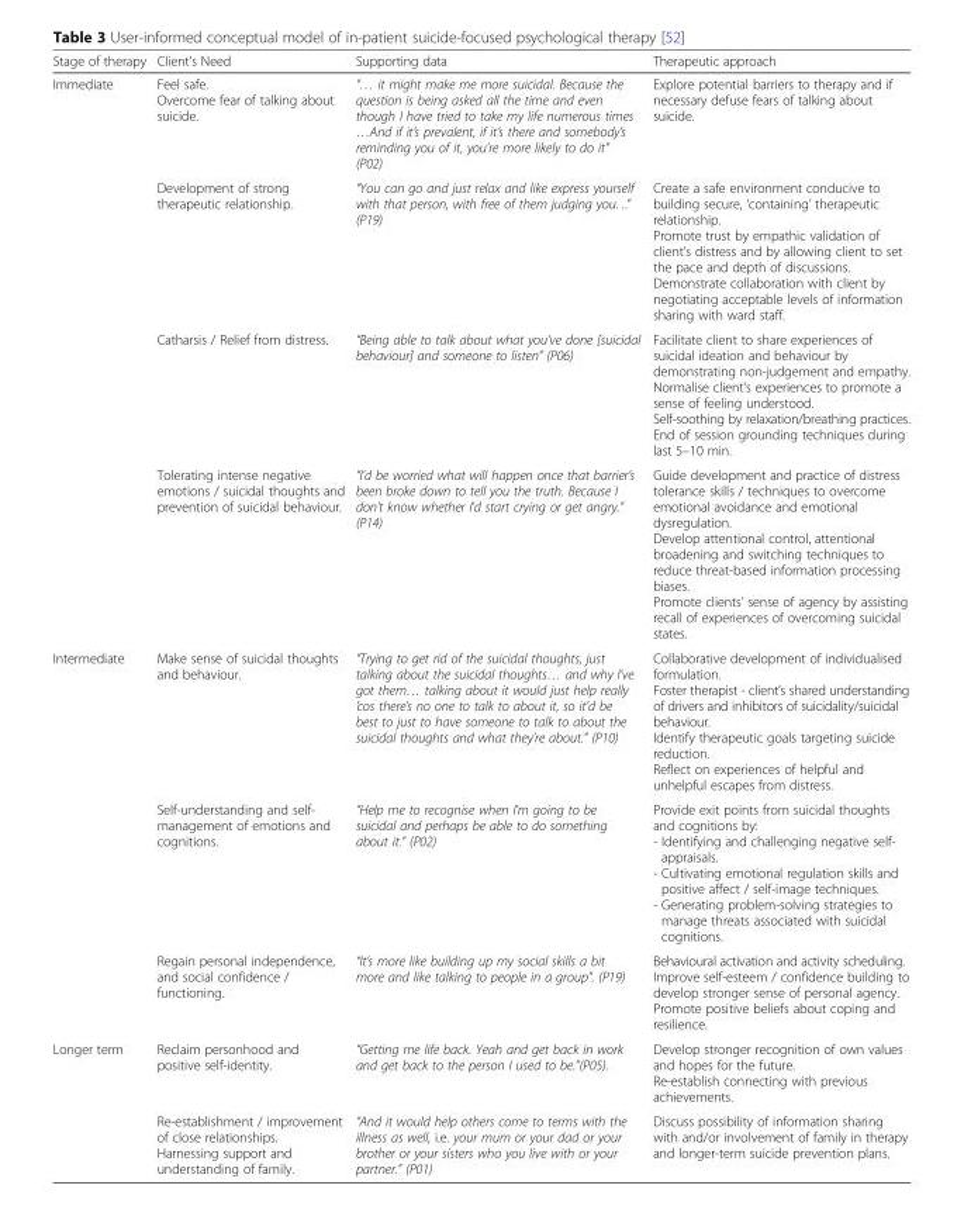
<table><thead><tr><td>Stage of therapy</td><td>Client’s Need</td><td>Supporting data</td><td>Therapeutic approach</td></tr></thead><tbody><tr><td rowspan="4">Immediate</td><td>Feel safe. Overcome fear of talking about suicide.</td><td>“… it might make me more suicidal. Because the question is being asked all the time and even though I have tried to take my life numerous times …And if it’s prevalent, if it’s there and somebody’s reminding you of it, you’re more likely to do it” (P02)</td><td>Explore potential barriers to therapy and if necessary defuse fears of talking about suicide.</td></tr><tr><td>Development of strong therapeutic relationship.</td><td>“You can go and just relax and like express yourself with that person, with free of them judging you. ..” (P19)</td><td>Create a safe environment conducive to building secure, ‘containing’ therapeutic relationship. Promote trust by empathic validation of client’s distress and by allowing client to set the pace and depth of discussions. Demonstrate collaboration with client by negotiating acceptable levels of information sharing with ward staff.</td></tr><tr><td>Catharsis / Relief from distress.</td><td>“Being able to talk about what you’ve done [suicidal behaviour] and someone to listen” (P06)</td><td>Facilitate client to share experiences of suicidal ideation and behaviour by demonstrating non-judgement and empathy. Normalise client’s experiences to promote a sense of feeling understood. Self-soothing by relaxation/breathing practices. End of session grounding techniques during last 5–10 min.</td></tr><tr><td>Tolerating intense negative emotions / suicidal thoughts and prevention of suicidal behaviour.</td><td>“I’d be worried what will happen once that barrier’s been broke down to tell you the truth. Because I don’t know whether I’d start crying or get angry.” (P14)</td><td>Guide development and practice of distress tolerance skills / techniques to overcome emotional avoidance and emotional dysregulation. Develop attentional control, attentional broadening and switching techniques to reduce threat-based information processing biases. Promote clients’ sense of agency by assisting recall of experiences of overcoming suicidal states.</td></tr><tr><td rowspan="3">Intermediate</td><td>Make sense of suicidal thoughts and behaviour.</td><td>“Trying to get rid of the suicidal thoughts, just talking about the suicidal thoughts… and why I’ve got them… talking about it would just help really ‘cos there’s no one to talk to about it, so it’d be best to just to have someone to talk to about the suicidal thoughts and what they’re about.” (P10)</td><td>Collaborative development of individualised formulation. Foster therapist - client’s shared understanding of drivers and inhibitors of suicidality/suicidal behaviour. Identify therapeutic goals targeting suicide reduction. Reflect on experiences of helpful and unhelpful escapes from distress.</td></tr><tr><td>Self-understanding and self- management of emotions and cognitions.</td><td>“Help me to recognise when I’m going to be suicidal and perhaps be able to do something about it.” (P02)</td><td>Provide exit points from suicidal thoughts and cognitions by: - Identifying and challenging negative self- appraisals. - Cultivating emotional regulation skills and positive affect / self-image techniques. - Generating problem-solving strategies to manage threats associated with suicidal cognitions.</td></tr><tr><td>Regain personal independence, and social confidence / functioning.</td><td>“It’s more like building up my social skills a bit more and like talking to people in a group”. (P19)</td><td>Behavioural activation and activity scheduling. Improve self-esteem / confidence building to develop stronger sense of personal agency. Promote positive beliefs about coping and resilience.</td></tr><tr><td rowspan="2">Longer term</td><td>Reclaim personhood and positive self-identity.</td><td>“Getting me life back. Yeah and get back in work and get back to the person I used to be.”(P05).</td><td>Develop stronger recognition of own values and hopes for the future. Re-establish connecting with previous achievements.</td></tr><tr><td>Re-establishment / improvement of close relationships. Harnessing support and understanding of family.</td><td>“And it would help others come to terms with the illness as well, i.e. your mum or your dad or your brother or your sisters who you live with or your partner.” (P01)</td><td>Discuss possibility of information sharing with and/or involvement of family in therapy and longer-term suicide prevention plans.</td></tr></tbody></table>